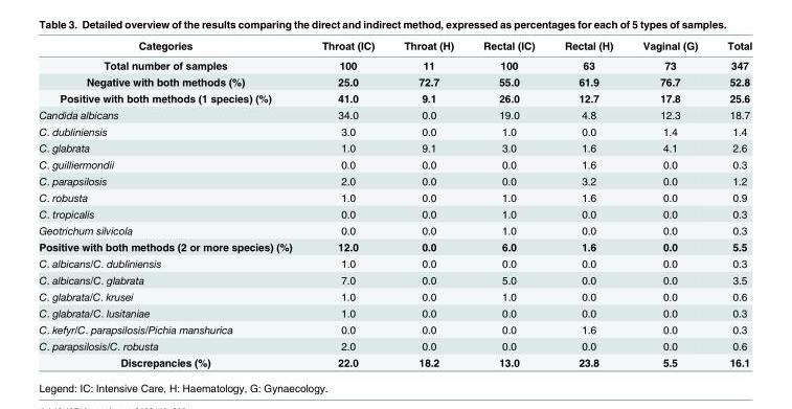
<table><thead><tr><td>Categories</td><td>Throat (IC)</td><td>Throat (H)</td><td>Rectal (IC)</td><td>Rectal (H)</td><td>Vaginal (G)</td><td>Total</td></tr></thead><tbody><tr><td>Total number of samples</td><td>100</td><td>11</td><td>100</td><td>63</td><td>73</td><td>347</td></tr><tr><td>Negative with both methods (%)</td><td>25.0</td><td>72.7</td><td>55.0</td><td>61.9</td><td>76.7</td><td>52.8</td></tr><tr><td>Positive with both methods (1 species) (%)</td><td>41.0</td><td>9.1</td><td>26.0</td><td>12.7</td><td>17.8</td><td>25.6</td></tr><tr><td>Candida albicans</td><td>34.0</td><td>0.0</td><td>19.0</td><td>4.8</td><td>12.3</td><td>18.7</td></tr><tr><td>C. dubliniensis</td><td>3.0</td><td>0.0</td><td>1.0</td><td>0.0</td><td>1.4</td><td>1.4</td></tr><tr><td>C. glabrata</td><td>1.0</td><td>9.1</td><td>3.0</td><td>1.6</td><td>4.1</td><td>2.6</td></tr><tr><td>C. guilliermondii</td><td>0.0</td><td>0.0</td><td>0.0</td><td>1.6</td><td>0.0</td><td>0.3</td></tr><tr><td>C. parapsilosis</td><td>2.0</td><td>0.0</td><td>0.0</td><td>3.2</td><td>0.0</td><td>1.2</td></tr><tr><td>C. robusta</td><td>1.0</td><td>0.0</td><td>1.0</td><td>1.6</td><td>0.0</td><td>0.9</td></tr><tr><td>C. tropicalis</td><td>0.0</td><td>0.0</td><td>1.0</td><td>0.0</td><td>0.0</td><td>0.3</td></tr><tr><td>Geotrichum silvicola</td><td>0.0</td><td>0.0</td><td>1.0</td><td>0.0</td><td>0.0</td><td>0.3</td></tr><tr><td>Positive with both methods (2 or more species) (%)</td><td>12.0</td><td>0.0</td><td>6.0</td><td>1.6</td><td>0.0</td><td>5.5</td></tr><tr><td>C. albicans/C. dubliniensis</td><td>1.0</td><td>0.0</td><td>0.0</td><td>0.0</td><td>0.0</td><td>0.3</td></tr><tr><td>C. albicans/C. glabrata</td><td>7.0</td><td>0.0</td><td>5.0</td><td>0.0</td><td>0.0</td><td>3.5</td></tr><tr><td>C. glabrata/C. krusei</td><td>1.0</td><td>0.0</td><td>1.0</td><td>0.0</td><td>0.0</td><td>0.6</td></tr><tr><td>C. glabrata/C. lusitaniae</td><td>1.0</td><td>0.0</td><td>0.0</td><td>0.0</td><td>0.0</td><td>0.3</td></tr><tr><td>C. kefyr/C. parapsilosis/Pichia manshurica</td><td>0.0</td><td>0.0</td><td>0.0</td><td>1.6</td><td>0.0</td><td>0.3</td></tr><tr><td>C. parapsilosis/C. robusta</td><td>2.0</td><td>0.0</td><td>0.0</td><td>0.0</td><td>0.0</td><td>0.6</td></tr><tr><td>Discrepancies (%)</td><td>22.0</td><td>18.2</td><td>13.0</td><td>23.8</td><td>5.5</td><td>16.1</td></tr></tbody></table>